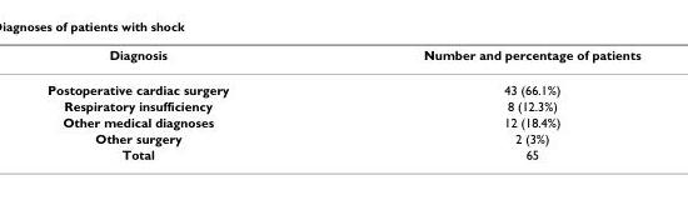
<table><thead><tr><td>Diagnosis</td><td>Number and percentage of patients</td></tr></thead><tbody><tr><td>Postoperative cardiac surgery</td><td>43 (66.1%)</td></tr><tr><td>Respiratory insufficiency</td><td>8 (12.3%)</td></tr><tr><td>Other medical diagnoses</td><td>12 (18.4%)</td></tr><tr><td>Other surgery</td><td>2 (3%)</td></tr><tr><td>Total</td><td>65</td></tr></tbody></table>